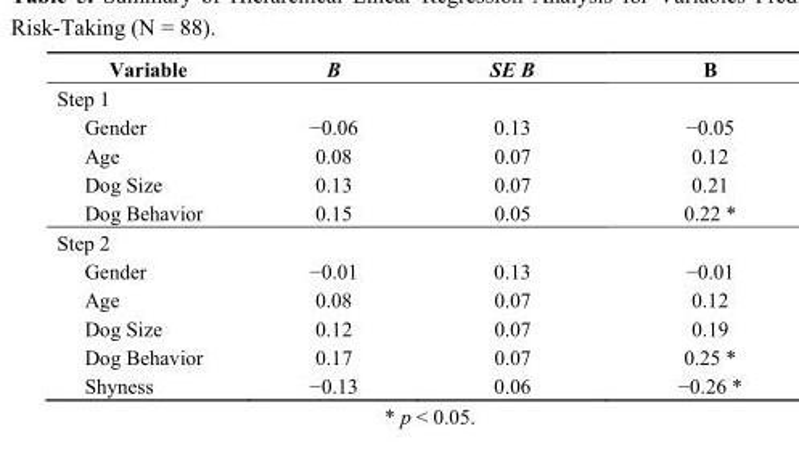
<table><thead><tr><td>Variable</td><td>B</td><td>SE B</td><td>Β</td></tr></thead><tbody><tr><td colspan="4">Step 1</td></tr><tr><td>Gender</td><td>−0.06</td><td>0.13</td><td>−0.05</td></tr><tr><td>Age</td><td>0.08</td><td>0.07</td><td>0.12</td></tr><tr><td>Dog Size</td><td>0.13</td><td>0.07</td><td>0.21</td></tr><tr><td>Dog Behavior</td><td>0.15</td><td>0.05</td><td>0.22 *</td></tr><tr><td colspan="4">Step 2</td></tr><tr><td>Gender</td><td>−0.01</td><td>0.13</td><td>−0.01</td></tr><tr><td>Age</td><td>0.08</td><td>0.07</td><td>0.12</td></tr><tr><td>Dog Size</td><td>0.12</td><td>0.07</td><td>0.19</td></tr><tr><td>Dog Behavior</td><td>0.17</td><td>0.07</td><td>0.25 *</td></tr><tr><td>Shyness</td><td>−0.13</td><td>0.06</td><td>−0.26 *</td></tr></tbody></table>